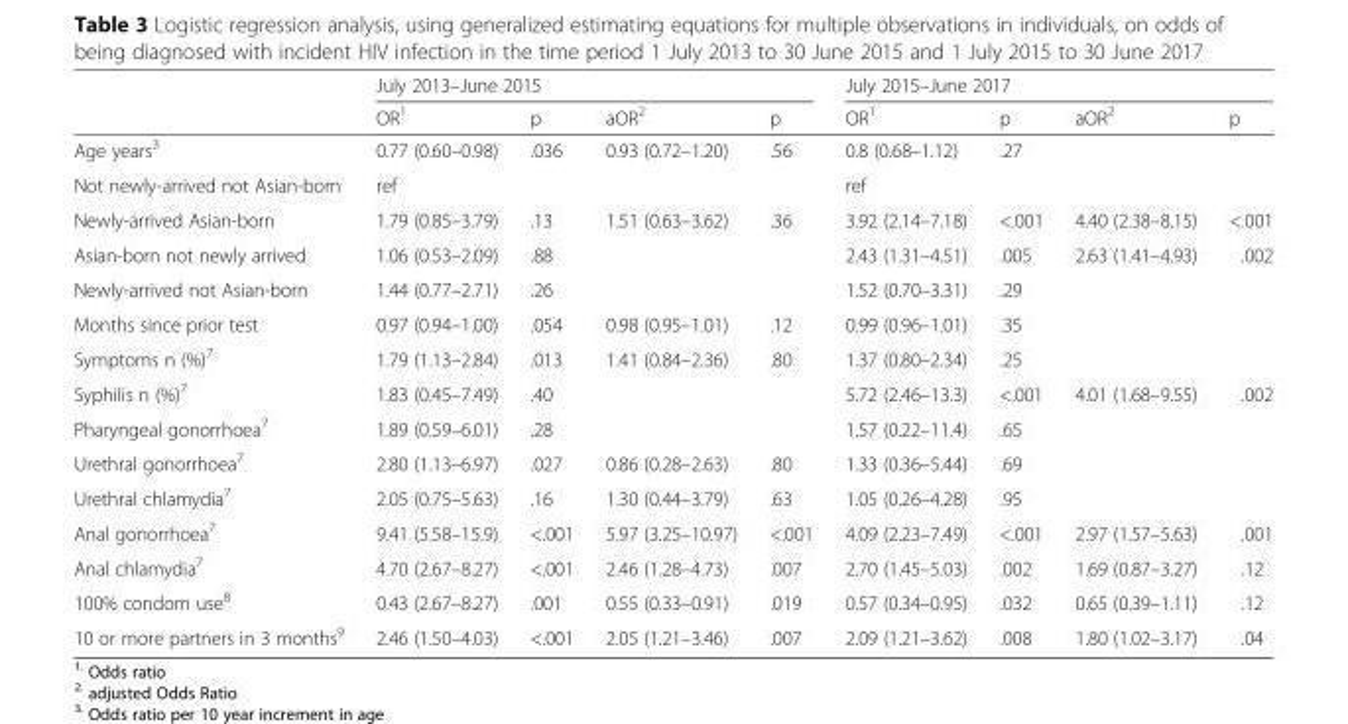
<table><thead><tr><td rowspan="2"></td><td colspan="4">July 2013–June 2015</td><td colspan="4">July 2015–June 2017</td></tr><tr><td>OR<sup>1</sup></td><td>p</td><td>aOR<sup>2</sup></td><td>p</td><td>OR<sup>1</sup></td><td>p</td><td>aOR<sup>2</sup></td><td>p</td></tr></thead><tbody><tr><td>Age years<sup>3</sup></td><td>0.77 (0.60–0.98)</td><td>.036</td><td>0.93 (0.72–1.20)</td><td>.56</td><td>0.8 (0.68–1.12)</td><td>.27</td><td></td><td></td></tr><tr><td>Not newly-arrived not Asian-born</td><td>ref</td><td></td><td></td><td></td><td>ref</td><td></td><td></td><td></td></tr><tr><td>Newly-arrived Asian-born</td><td>1.79 (0.85–3.79)</td><td>.13</td><td>1.51 (0.63–3.62)</td><td>.36</td><td>3.92 (2.14–7.18)</td><td>&lt;.001</td><td>4.40 (2.38–8.15)</td><td>&lt;.001</td></tr><tr><td>Asian-born not newly arrived</td><td>1.06 (0.53–2.09)</td><td>.88</td><td></td><td></td><td>2.43 (1.31–4.51)</td><td>.005</td><td>2.63 (1.41–4.93)</td><td>.002</td></tr><tr><td>Newly-arrived not Asian-born</td><td>1.44 (0.77–2.71)</td><td>.26</td><td></td><td></td><td>1.52 (0.70–3.31)</td><td>.29</td><td></td><td></td></tr><tr><td>Months since prior test</td><td>0.97 (0.94–1.00)</td><td>.054</td><td>0.98 (0.95–1.01)</td><td>.12</td><td>0.99 (0.96–1.01)</td><td>.35</td><td></td><td></td></tr><tr><td>Symptoms n (%)<sup>7</sup></td><td>1.79 (1.13–2.84)</td><td>.013</td><td>1.41 (0.84–2.36)</td><td>.80</td><td>1.37 (0.80–2.34)</td><td>.25</td><td></td><td></td></tr><tr><td>Syphilis n (%)<sup>7</sup></td><td>1.83 (0.45–7.49)</td><td>.40</td><td></td><td></td><td>5.72 (2.46–13.3)</td><td>&lt;.001</td><td>4.01 (1.68–9.55)</td><td>.002</td></tr><tr><td>Pharyngeal gonorrhoea<sup>7</sup></td><td>1.89 (0.59–6.01)</td><td>.28</td><td></td><td></td><td>1.57 (0.22–11.4)</td><td>.65</td><td></td><td></td></tr><tr><td>Urethral gonorrhoea<sup>7</sup></td><td>2.80 (1.13–6.97)</td><td>.027</td><td>0.86 (0.28–2.63)</td><td>.80</td><td>1.33 (0.36–5.44)</td><td>.69</td><td></td><td></td></tr><tr><td>Urethral chlamydia<sup>7</sup></td><td>2.05 (0.75–5.63)</td><td>.16</td><td>1.30 (0.44–3.79)</td><td>.63</td><td>1.05 (0.26–4.28)</td><td>.95</td><td></td><td></td></tr><tr><td>Anal gonorrhoea<sup>7</sup></td><td>9.41 (5.58–15.9)</td><td>&lt;.001</td><td>5.97 (3.25–10.97)</td><td>&lt;.001</td><td>4.09 (2.23–7.49)</td><td>&lt;.001</td><td>2.97 (1.57–5.63)</td><td>.001</td></tr><tr><td>Anal chlamydia<sup>7</sup></td><td>4.70 (2.67–8.27)</td><td>&lt;.001</td><td>2.46 (1.28–4.73)</td><td>.007</td><td>2.70 (1.45–5.03)</td><td>.002</td><td>1.69 (0.87–3.27)</td><td>.12</td></tr><tr><td>100% condom use<sup>8</sup></td><td>0.43 (2.67–8.27)</td><td>.001</td><td>0.55 (0.33–0.91)</td><td>.019</td><td>0.57 (0.34–0.95)</td><td>.032</td><td>0.65 (0.39–1.11)</td><td>.12</td></tr><tr><td>10 or more partners in 3 months<sup>9</sup></td><td>2.46 (1.50–4.03)</td><td>&lt;.001</td><td>2.05 (1.21–3.46)</td><td>.007</td><td>2.09 (1.21–3.62)</td><td>.008</td><td>1.80 (1.02–3.17)</td><td>.04</td></tr></tbody></table>